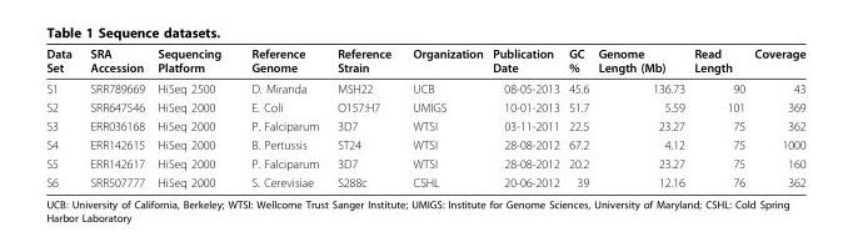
<table><thead><tr><td>Data Set</td><td>SRA Accession</td><td>Sequencing Platform</td><td>Reference Genome</td><td>Reference Strain</td><td>Organization</td><td>Publication Date</td><td>GC %</td><td>Genome Length (Mb)</td><td>Read Length</td><td>Coverage</td></tr></thead><tbody><tr><td>S1</td><td>SRR789669</td><td>HiSeq 2500</td><td>D. Miranda</td><td>MSH22</td><td>UCB</td><td>08-05-2013</td><td>45.6</td><td>136.73</td><td>90</td><td>43</td></tr><tr><td>S2</td><td>SRR647546</td><td>HiSeq 2000</td><td>E. Coli</td><td>O157:H7</td><td>UMIGS</td><td>10-01-2013</td><td>51.7</td><td>5.59</td><td>101</td><td>369</td></tr><tr><td>S3</td><td>ERR036168</td><td>HiSeq 2000</td><td>P. Falciparum</td><td>3D7</td><td>WTSI</td><td>03-11-2011</td><td>22.5</td><td>23.27</td><td>75</td><td>362</td></tr><tr><td>S4</td><td>ERR142615</td><td>HiSeq 2000</td><td>B. Pertussis</td><td>ST24</td><td>WTSI</td><td>28-08-2012</td><td>67.2</td><td>4.12</td><td>75</td><td>1000</td></tr><tr><td>S5</td><td>ERR142617</td><td>HiSeq 2000</td><td>P. Falciparum</td><td>3D7</td><td>WTSI</td><td>28-08-2012</td><td>20.2</td><td>23.27</td><td>75</td><td>160</td></tr><tr><td>S6</td><td>SRR507777</td><td>HiSeq 2000</td><td>S. Cerevisiae</td><td>S288c</td><td>CSHL</td><td>20-06-2012</td><td>39</td><td>12.16</td><td>76</td><td>362</td></tr></tbody></table>